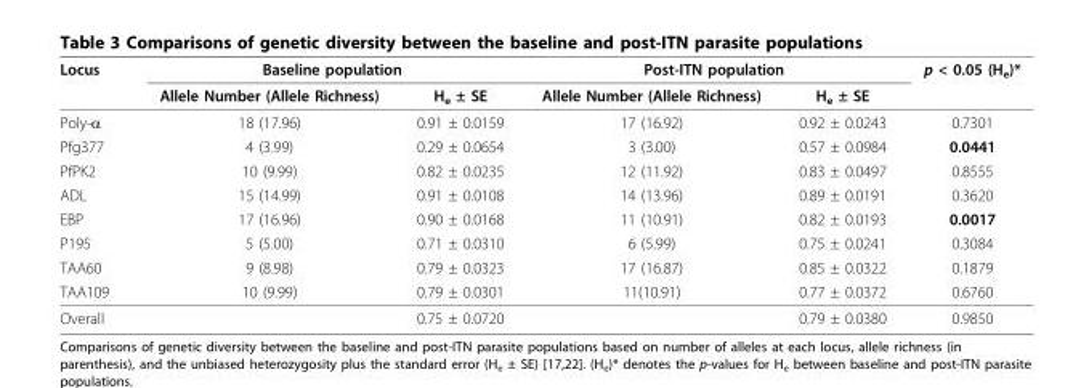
<table><thead><tr><td rowspan="2">Locus</td><td colspan="2">Baseline population</td><td colspan="2">Post-ITN population</td><td rowspan="2">p &lt; 0.05 (H<sub>e</sub>)*</td></tr><tr><td>Allele Number (Allele Richness)</td><td>H<sub>e</sub> ± SE</td><td>Allele Number (Allele Richness)</td><td>H<sub>e</sub> ± SE</td></tr></thead><tbody><tr><td>Poly-α</td><td>18 (17.96)</td><td>0.91 ± 0.0159</td><td>17 (16.92)</td><td>0.92 ± 0.0243</td><td>0.7301</td></tr><tr><td>Pfg377</td><td>4 (3.99)</td><td>0.29 ± 0.0654</td><td>3 (3.00)</td><td>0.57 ± 0.0984</td><td>0.0441</td></tr><tr><td>PfPK2</td><td>10 (9.99)</td><td>0.82 ± 0.0235</td><td>12 (11.92)</td><td>0.83 ± 0.0497</td><td>0.8555</td></tr><tr><td>ADL</td><td>15 (14.99)</td><td>0.91 ± 0.0108</td><td>14 (13.96)</td><td>0.89 ± 0.0191</td><td>0.3620</td></tr><tr><td>EBP</td><td>17 (16.96)</td><td>0.90 ± 0.0168</td><td>11 (10.91)</td><td>0.82 ± 0.0193</td><td>0.0017</td></tr><tr><td>P195</td><td>5 (5.00)</td><td>0.71 ± 0.0310</td><td>6 (5.99)</td><td>0.75 ± 0.0241</td><td>0.3084</td></tr><tr><td>TAA60</td><td>9 (8.98)</td><td>0.79 ± 0.0323</td><td>17 (16.87)</td><td>0.85 ± 0.0322</td><td>0.1879</td></tr><tr><td>TAA109</td><td>10 (9.99)</td><td>0.79 ± 0.0301</td><td>11(10.91)</td><td>0.77 ± 0.0372</td><td>0.6760</td></tr><tr><td>Overall</td><td></td><td>0.75 ± 0.0720</td><td></td><td>0.79 ± 0.0380</td><td>0.9850</td></tr></tbody></table>